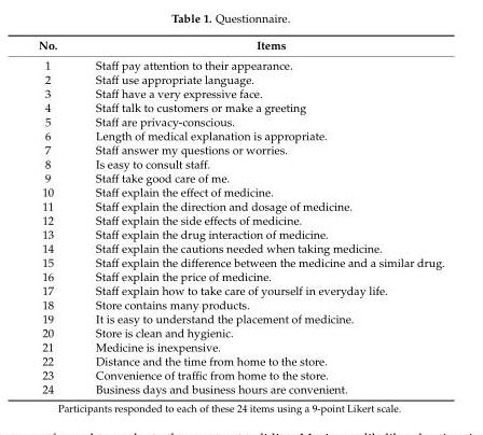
<table><thead><tr><td>No.</td><td>Items</td></tr></thead><tbody><tr><td>1</td><td>Staff pay attention to their appearance.</td></tr><tr><td>2</td><td>Staff use appropriate language.</td></tr><tr><td>3</td><td>Staff have a very expressive face.</td></tr><tr><td>4</td><td>Staff talk to customers or make a greeting</td></tr><tr><td>5</td><td>Staff are privacy-conscious.</td></tr><tr><td>6</td><td>Length of medical explanation is appropriate.</td></tr><tr><td>7</td><td>Staff answer my questions or worries.</td></tr><tr><td>8</td><td>Is easy to consult staff.</td></tr><tr><td>9</td><td>Staff take good care of me.</td></tr><tr><td>10</td><td>Staff explain the effect of medicine.</td></tr><tr><td>11</td><td>Staff explain the direction and dosage of medicine.</td></tr><tr><td>12</td><td>Staff explain the side effects of medicine.</td></tr><tr><td>13</td><td>Staff explain the drug interaction of medicine.</td></tr><tr><td>14</td><td>Staff explain the cautions needed when taking medicine.</td></tr><tr><td>15</td><td>Staff explain the difference between the medicine and a similar drug.</td></tr><tr><td>16</td><td>Staff explain the price of medicine.</td></tr><tr><td>17</td><td>Staff explain how to take care of yourself in everyday life.</td></tr><tr><td>18</td><td>Store contains many products.</td></tr><tr><td>19</td><td>It is easy to understand the placement of medicine.</td></tr><tr><td>20</td><td>Store is clean and hygienic.</td></tr><tr><td>21</td><td>Medicine is inexpensive.</td></tr><tr><td>22</td><td>Distance and the time from home to the store.</td></tr><tr><td>23</td><td>Convenience of traffic from home to the store.</td></tr><tr><td>24</td><td>Business days and business hours are convenient.</td></tr></tbody></table>